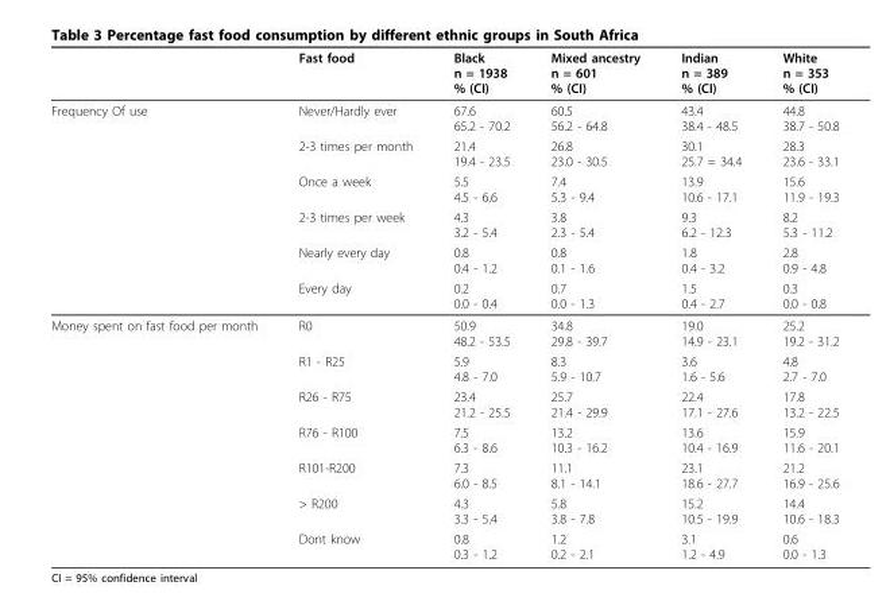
<table><thead><tr><td></td><td>Fast food</td><td>Black n = 1938 % (CI)</td><td>Mixed ancestry n = 601 % (CI)</td><td>Indian n = 389 % (CI)</td><td>White n = 353 % (CI)</td></tr></thead><tbody><tr><td rowspan="6">Frequency Of use</td><td>Never/Hardly ever</td><td>67.6 65.2 - 70.2</td><td>60.5 56.2 - 64.8</td><td>43.4 38.4 - 48.5</td><td>44.8 38.7 - 50.8</td></tr><tr><td>2-3 times per month</td><td>21.4 19.4 - 23.5</td><td>26.8 23.0 - 30.5</td><td>30.1 25.7 = 34.4</td><td>28.3 23.6 - 33.1</td></tr><tr><td>Once a week</td><td>5.5 4.5 - 6.6</td><td>7.4 5.3 - 9.4</td><td>13.9 10.6 - 17.1</td><td>15.6 11.9 - 19.3</td></tr><tr><td>2-3 times per week</td><td>4.3 3.2 - 5.4</td><td>3.8 2.3 - 5.4</td><td>9.3 6.2 - 12.3</td><td>8.2 5.3 - 11.2</td></tr><tr><td>Nearly every day</td><td>0.8 0.4 - 1.2</td><td>0.8 0.1 - 1.6</td><td>1.8 0.4 - 3.2</td><td>2.8 0.9 - 4.8</td></tr><tr><td>Every day</td><td>0.2 0.0 - 0.4</td><td>0.7 0.0 - 1.3</td><td>1.5 0.4 - 2.7</td><td>0.3 0.0 - 0.8</td></tr><tr><td rowspan="7">Money spent on fast food per month</td><td>R0</td><td>50.9 48.2 - 53.5</td><td>34.8 29.8 - 39.7</td><td>19.0 14.9 - 23.1</td><td>25.2 19.2 - 31.2</td></tr><tr><td>R1 - R25</td><td>5.9 4.8 - 7.0</td><td>8.3 5.9 - 10.7</td><td>3.6 1.6 - 5.6</td><td>4.8 2.7 - 7.0</td></tr><tr><td>R26 - R75</td><td>23.4 21.2 - 25.5</td><td>25.7 21.4 - 29.9</td><td>22.4 17.1 - 27.6</td><td>17.8 13.2 - 22.5</td></tr><tr><td>R76 - R100</td><td>7.5 6.3 - 8.6</td><td>13.2 10.3 - 16.2</td><td>13.6 10.4 - 16.9</td><td>15.9 11.6 - 20.1</td></tr><tr><td>R101-R200</td><td>7.3 6.0 - 8.5</td><td>11.1 8.1 - 14.1</td><td>23.1 18.6 - 27.7</td><td>21.2 16.9 - 25.6</td></tr><tr><td>&gt; R200</td><td>4.3 3.3 - 5.4</td><td>5.8 3.8 - 7.8</td><td>15.2 10.5 - 19.9</td><td>14.4 10.6 - 18.3</td></tr><tr><td>Dont know</td><td>0.8 0.3 - 1.2</td><td>1.2 0.2 - 2.1</td><td>3.1 1.2 - 4.9</td><td>0.6 0.0 - 1.3</td></tr></tbody></table>